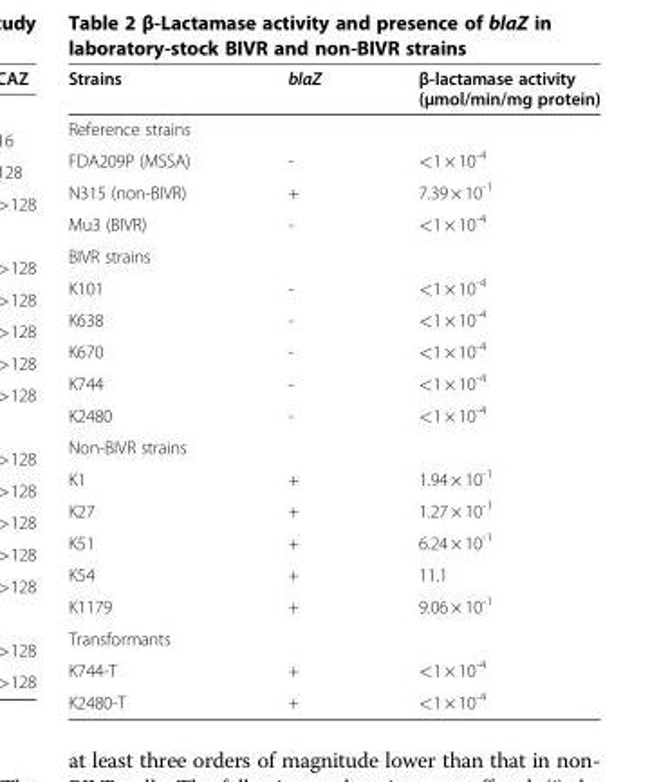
<table><thead><tr><td>Strains</td><td>blaZ</td><td>β-lactamase activity (μmol/min/mg protein)</td></tr></thead><tbody><tr><td colspan="3">Reference strains</td></tr><tr><td>FDA209P (MSSA)</td><td>-</td><td>&lt;1 × 10<sup>-4</sup></td></tr><tr><td>N315 (non-BIVR)</td><td>+</td><td>7.39 × 10<sup>-1</sup></td></tr><tr><td>Mu3 (BIVR)</td><td>-</td><td>&lt;1 × 10<sup>-4</sup></td></tr><tr><td colspan="3">BIVR strains</td></tr><tr><td>K101</td><td>-</td><td>&lt;1 × 10<sup>-4</sup></td></tr><tr><td>K638</td><td>-</td><td>&lt;1 × 10<sup>-4</sup></td></tr><tr><td>K670</td><td>-</td><td>&lt;1 × 10<sup>-4</sup></td></tr><tr><td>K744</td><td>-</td><td>&lt;1 × 10<sup>-4</sup></td></tr><tr><td>K2480</td><td>-</td><td>&lt;1 × 10<sup>-4</sup></td></tr><tr><td colspan="3">Non-BIVR strains</td></tr><tr><td>K1</td><td>+</td><td>1.94 × 10<sup>-1</sup></td></tr><tr><td>K27</td><td>+</td><td>1.27 × 10<sup>-1</sup></td></tr><tr><td>K51</td><td>+</td><td>6.24 × 10<sup>-1</sup></td></tr><tr><td>K54</td><td>+</td><td>11.1</td></tr><tr><td>K1179</td><td>+</td><td>9.06 × 10<sup>-1</sup></td></tr><tr><td colspan="3">Transformants</td></tr><tr><td>K744-T</td><td>+</td><td>&lt;1 × 10<sup>-4</sup></td></tr><tr><td>K2480-T</td><td>+</td><td>&lt;1 × 10<sup>-4</sup></td></tr></tbody></table>